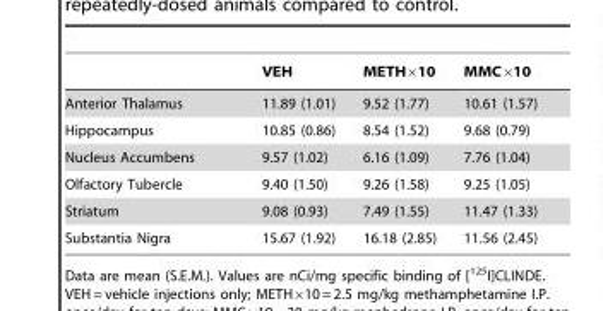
<table><thead><tr><td></td><td>VEH</td><td>METH×10</td><td>MMC×10</td></tr></thead><tbody><tr><td>Anterior Thalamus</td><td>11.89 (1.01)</td><td>9.52 (1.77)</td><td>10.61 (1.57)</td></tr><tr><td>Hippocampus</td><td>10.85 (0.86)</td><td>8.54 (1.52)</td><td>9.68 (0.79)</td></tr><tr><td>Nucleus Accumbens</td><td>9.57 (1.02)</td><td>6.16 (1.09)</td><td>7.76 (1.04)</td></tr><tr><td>Olfactory Tubercle</td><td>9.40 (1.50)</td><td>9.26 (1.58)</td><td>9.25 (1.05)</td></tr><tr><td>Striatum</td><td>9.08 (0.93)</td><td>7.49 (1.55)</td><td>11.47 (1.33)</td></tr><tr><td>Substantia Nigra</td><td>15.67 (1.92)</td><td>16.18 (2.85)</td><td>11.56 (2.45)</td></tr></tbody></table>